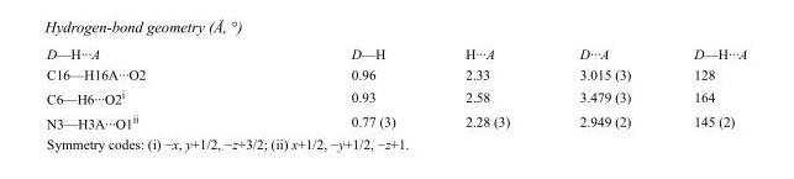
<table><tbody><tr><td>D—H···A</td><td>D—H</td><td>H···A</td><td>D···A</td><td>D—H···A</td></tr><tr><td>C16—H16A···O2</td><td>0.96</td><td>2.33</td><td>3.015 (3)</td><td>128</td></tr><tr><td>C6—H6···O2<sup>i</sup></td><td>0.93</td><td>2.58</td><td>3.479 (3)</td><td>164</td></tr><tr><td>N3—H3A···O1<sup>ii</sup></td><td>0.77 (3)</td><td>2.28 (3)</td><td>2.949 (2)</td><td>145 (2)</td></tr></tbody></table>